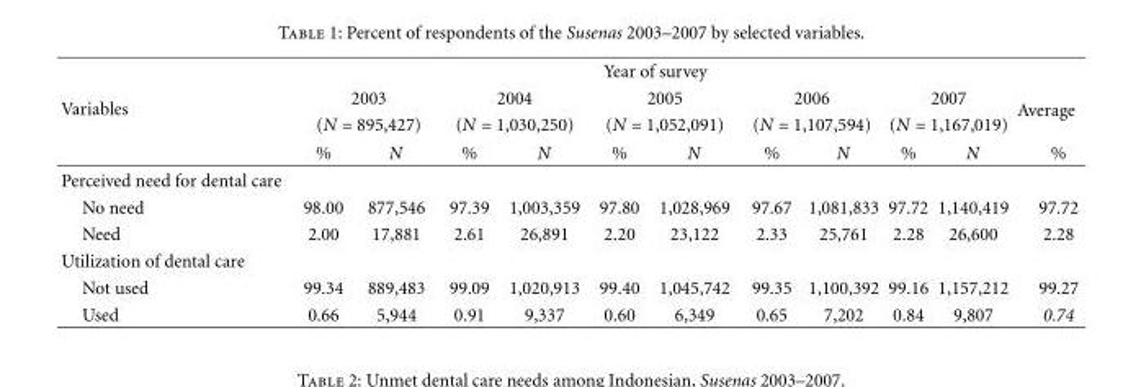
<table><thead><tr><td rowspan="4">Variables</td><td colspan="10">Year of survey</td><td rowspan="4">Average %</td></tr><tr><td rowspan="2" colspan="2">2003 (N = 895,427)</td><td rowspan="2" colspan="2">2004 (N = 1,030,250)</td><td rowspan="2" colspan="2">2005 (N = 1,052,091)</td><td rowspan="2" colspan="2">2006 (N = 1,107,594)</td><td rowspan="2" colspan="2">2007 (N = 1,167,019)</td></tr><tr></tr><tr><td>%</td><td>N</td><td>%</td><td>N</td><td>%</td><td>N</td><td>%</td><td>N</td><td>%</td><td>N</td></tr></thead><tbody><tr><td colspan="12">Perceived need for dental care</td></tr><tr><td>No need</td><td>98.00</td><td>877,546</td><td>97.39</td><td>1,003,359</td><td>97.80</td><td>1,028,969</td><td>97.67</td><td>1,081,833</td><td>97.72</td><td>1,140,419</td><td>97.72</td></tr><tr><td>Need</td><td>2.00</td><td>17,881</td><td>2.61</td><td>26,891</td><td>2.20</td><td>23,122</td><td>2.33</td><td>25,761</td><td>2.28</td><td>26,600</td><td>2.28</td></tr><tr><td colspan="12">Utilization of dental care</td></tr><tr><td>Not used</td><td>99.34</td><td>889,483</td><td>99.09</td><td>1,020,913</td><td>99.40</td><td>1,045,742</td><td>99.35</td><td>1,100,392</td><td>99.16</td><td>1,157,212</td><td>99.27</td></tr><tr><td>Used</td><td>0.66</td><td>5,944</td><td>0.91</td><td>9,337</td><td>0.60</td><td>6,349</td><td>0.65</td><td>7,202</td><td>0.84</td><td>9,807</td><td>0.74</td></tr></tbody></table>